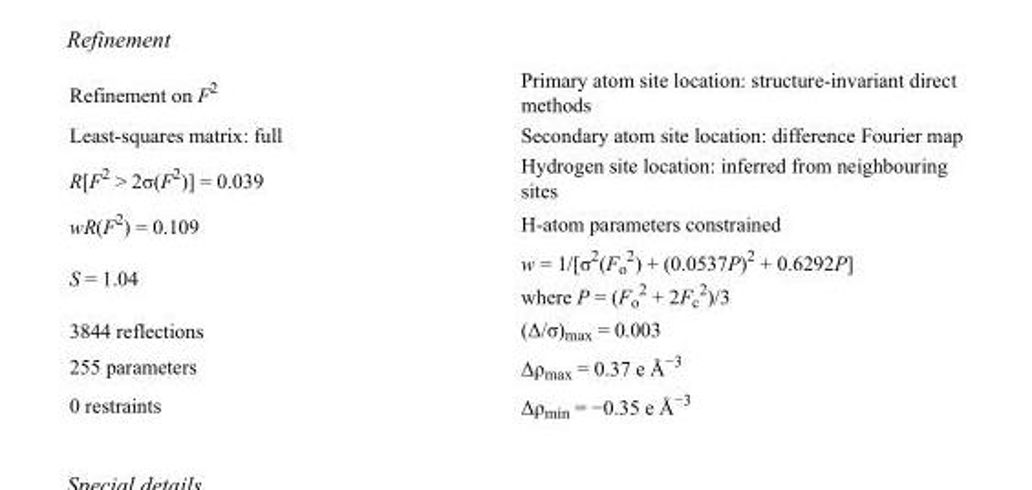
<table><tbody><tr><td>Refinement on F<sup>2</sup></td><td>Primary atom site location: structure-invariant direct methods</td></tr><tr><td>Least-squares matrix: full</td><td>Secondary atom site location: difference Fourier map</td></tr><tr><td>R[F<sup>2</sup> &gt; 2σ(F<sup>2</sup>)] = 0.039</td><td>Hydrogen site location: inferred from neighbouring sites</td></tr><tr><td>wR(F<sup>2</sup>) = 0.109</td><td>H-atom parameters constrained</td></tr><tr><td>S = 1.04</td><td>w = 1/[σ<sup>2</sup>(F<sub>o</sub> <sup>2</sup>) + (0.0537P)<sup>2</sup> + 0.6292P] where P = (F<sub>o</sub> <sup>2</sup> + 2F<sub>c</sub> <sup>2</sup>)/3</td></tr><tr><td>3844 reflections</td><td>(Δ/σ)<sub>max</sub> = 0.003</td></tr><tr><td>255 parameters</td><td>Δρ<sub>max</sub> = 0.37 e Å<sup>−3</sup></td></tr><tr><td>0 restraints</td><td>Δρ<sub>min</sub> = −0.35 e Å<sup>−3</sup></td></tr></tbody></table>